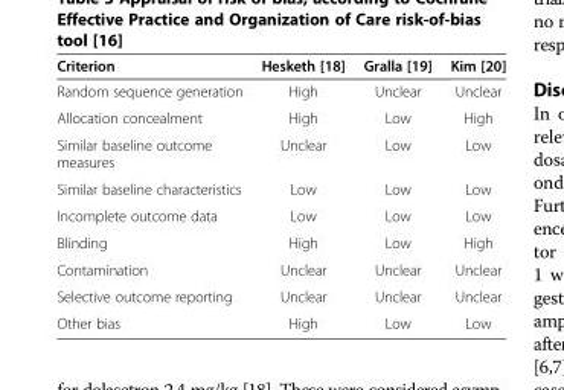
<table><thead><tr><td>Criterion</td><td>Hesketh [18]</td><td>Gralla [19]</td><td>Kim [20]</td></tr></thead><tbody><tr><td>Random sequence generation</td><td>High</td><td>Unclear</td><td>Unclear</td></tr><tr><td>Allocation concealment</td><td>High</td><td>Low</td><td>High</td></tr><tr><td>Similar baseline outcome measures</td><td>Unclear</td><td>Low</td><td>Low</td></tr><tr><td>Similar baseline characteristics</td><td>Low</td><td>Low</td><td>Low</td></tr><tr><td>Incomplete outcome data</td><td>Low</td><td>Low</td><td>Low</td></tr><tr><td>Blinding</td><td>High</td><td>Low</td><td>High</td></tr><tr><td>Contamination</td><td>Unclear</td><td>Unclear</td><td>Unclear</td></tr><tr><td>Selective outcome reporting</td><td>Unclear</td><td>Unclear</td><td>Unclear</td></tr><tr><td>Other bias</td><td>High</td><td>Low</td><td>Low</td></tr></tbody></table>